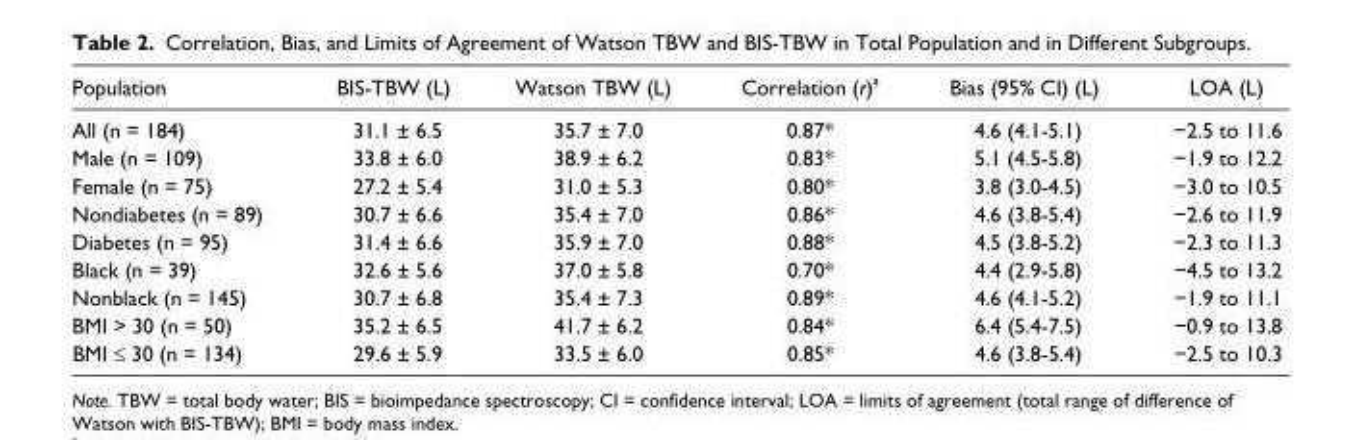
<table><thead><tr><td>Population</td><td>BIS-TBW (L)</td><td>Watson TBW (L)</td><td>Correlation (r)<sup>a</sup></td><td>Bias (95% CI) (L)</td><td>LOA (L)</td></tr></thead><tbody><tr><td>All (n = 184)</td><td>31.1 ± 6.5</td><td>35.7 ± 7.0</td><td>0.87*</td><td>4.6 (4.1-5.1)</td><td>−2.5 to 11.6</td></tr><tr><td>Male (n = 109)</td><td>33.8 ± 6.0</td><td>38.9 ± 6.2</td><td>0.83*</td><td>5.1 (4.5-5.8)</td><td>−1.9 to 12.2</td></tr><tr><td>Female (n = 75)</td><td>27.2 ± 5.4</td><td>31.0 ± 5.3</td><td>0.80*</td><td>3.8 (3.0-4.5)</td><td>−3.0 to 10.5</td></tr><tr><td>Nondiabetes (n = 89)</td><td>30.7 ± 6.6</td><td>35.4 ± 7.0</td><td>0.86*</td><td>4.6 (3.8-5.4)</td><td>−2.6 to 11.9</td></tr><tr><td>Diabetes (n = 95)</td><td>31.4 ± 6.6</td><td>35.9 ± 7.0</td><td>0.88*</td><td>4.5 (3.8-5.2)</td><td>−2.3 to 11.3</td></tr><tr><td>Black (n = 39)</td><td>32.6 ± 5.6</td><td>37.0 ± 5.8</td><td>0.70*</td><td>4.4 (2.9-5.8)</td><td>−4.5 to 13.2</td></tr><tr><td>Nonblack (n = 145)</td><td>30.7 ± 6.8</td><td>35.4 ± 7.3</td><td>0.89*</td><td>4.6 (4.1-5.2)</td><td>−1.9 to 11.1</td></tr><tr><td>BMI &gt; 30 (n = 50)</td><td>35.2 ± 6.5</td><td>41.7 ± 6.2</td><td>0.84*</td><td>6.4 (5.4-7.5)</td><td>−0.9 to 13.8</td></tr><tr><td>BMI ≤ 30 (n = 134)</td><td>29.6 ± 5.9</td><td>33.5 ± 6.0</td><td>0.85*</td><td>4.6 (3.8-5.4)</td><td>−2.5 to 10.3</td></tr></tbody></table>